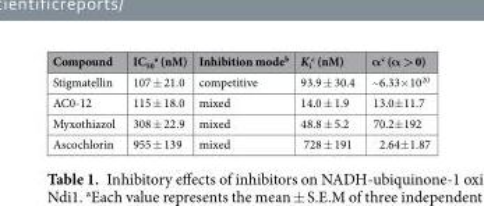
<table><thead><tr><td>Compound</td><td>IC<sub>50</sub> <sup>a</sup> (nM)</td><td>Inhibition mode<sup>b</sup></td><td>K<sub>i</sub> <sup>c</sup> (nM)</td><td>α<sup>c</sup> (α &gt; 0)</td></tr></thead><tbody><tr><td>Stigmatellin</td><td>107 ± 21.0</td><td>competitive</td><td>93.9 ± 30.4</td><td>~6.33×10<sup>20</sup></td></tr><tr><td>AC0-12</td><td>115 ± 18.0</td><td>mixed</td><td>14.0 ± 1.9</td><td>13.0±11.7</td></tr><tr><td>Myxothiazol</td><td>308 ± 22.9</td><td>mixed</td><td>48.8 ± 5.2</td><td>70.2±192</td></tr><tr><td>Ascochlorin</td><td>955 ± 139</td><td>mixed</td><td>728 ± 191</td><td>2.64±1.87</td></tr></tbody></table>